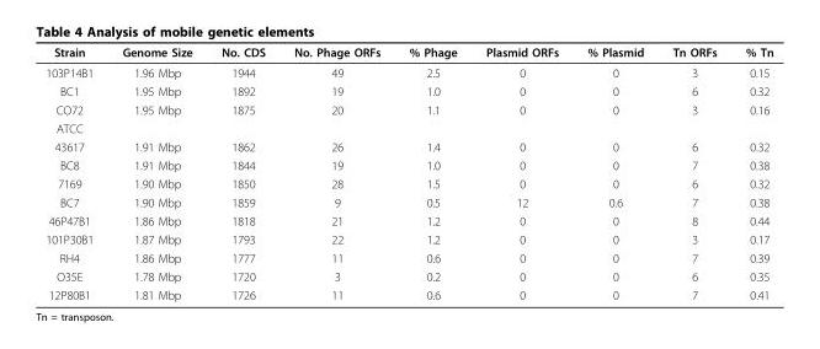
<table><thead><tr><td>Strain</td><td>Genome Size</td><td>No. CDS</td><td>No. Phage ORFs</td><td>% Phage</td><td>Plasmid ORFs</td><td>% Plasmid</td><td>Tn ORFs</td><td>% Tn</td></tr></thead><tbody><tr><td>103P14B1</td><td>1.96 Mbp</td><td>1944</td><td>49</td><td>2.5</td><td>0</td><td>0</td><td>3</td><td>0.15</td></tr><tr><td>BC1</td><td>1.95 Mbp</td><td>1892</td><td>19</td><td>1.0</td><td>0</td><td>0</td><td>6</td><td>0.32</td></tr><tr><td>CO72</td><td>1.95 Mbp</td><td>1875</td><td>20</td><td>1.1</td><td>0</td><td>0</td><td>3</td><td>0.16</td></tr><tr><td colspan="9">ATCC</td></tr><tr><td>43617</td><td>1.91 Mbp</td><td>1862</td><td>26</td><td>1.4</td><td>0</td><td>0</td><td>6</td><td>0.32</td></tr><tr><td>BC8</td><td>1.91 Mbp</td><td>1844</td><td>19</td><td>1.0</td><td>0</td><td>0</td><td>7</td><td>0.38</td></tr><tr><td>7169</td><td>1.90 Mbp</td><td>1850</td><td>28</td><td>1.5</td><td>0</td><td>0</td><td>6</td><td>0.32</td></tr><tr><td>BC7</td><td>1.90 Mbp</td><td>1859</td><td>9</td><td>0.5</td><td>12</td><td>0.6</td><td>7</td><td>0.38</td></tr><tr><td>46P47B1</td><td>1.86 Mbp</td><td>1818</td><td>21</td><td>1.2</td><td>0</td><td>0</td><td>8</td><td>0.44</td></tr><tr><td>101P30B1</td><td>1.87 Mbp</td><td>1793</td><td>22</td><td>1.2</td><td>0</td><td>0</td><td>3</td><td>0.17</td></tr><tr><td>RH4</td><td>1.86 Mbp</td><td>1777</td><td>11</td><td>0.6</td><td>0</td><td>0</td><td>7</td><td>0.39</td></tr><tr><td>O35E</td><td>1.78 Mbp</td><td>1720</td><td>3</td><td>0.2</td><td>0</td><td>0</td><td>6</td><td>0.35</td></tr><tr><td>12P80B1</td><td>1.81 Mbp</td><td>1726</td><td>11</td><td>0.6</td><td>0</td><td>0</td><td>7</td><td>0.41</td></tr></tbody></table>